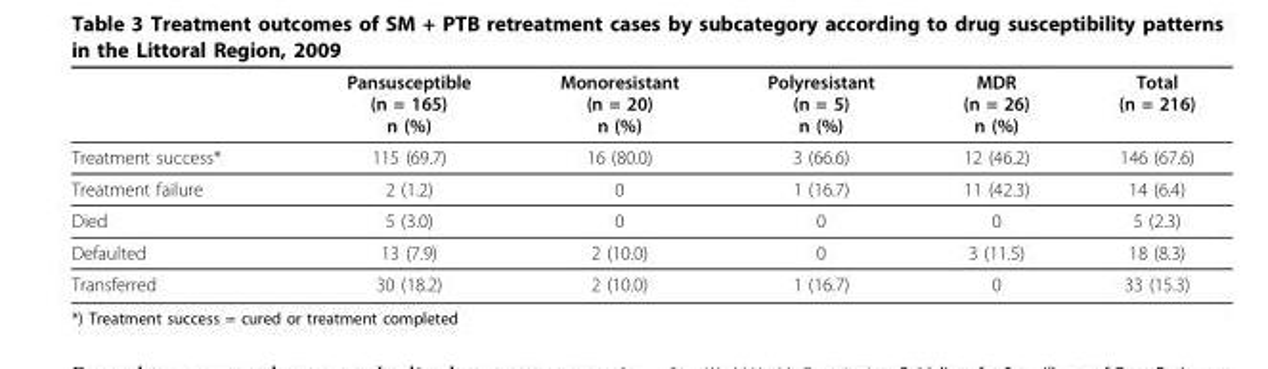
<table><thead><tr><td></td><td>Pansusceptible (n = 165) n (%)</td><td>Monoresistant (n = 20) n (%)</td><td>Polyresistant (n = 5) n (%)</td><td>MDR (n = 26) n (%)</td><td>Total (n = 216)</td></tr></thead><tbody><tr><td>Treatment success*</td><td>115 (69.7)</td><td>16 (80.0)</td><td>3 (66.6)</td><td>12 (46.2)</td><td>146 (67.6)</td></tr><tr><td>Treatment failure</td><td>2 (1.2)</td><td>0</td><td>1 (16.7)</td><td>11 (42.3)</td><td>14 (6.4)</td></tr><tr><td>Died</td><td>5 (3.0)</td><td>0</td><td>0</td><td>0</td><td>5 (2.3)</td></tr><tr><td>Defaulted</td><td>13 (7.9)</td><td>2 (10.0)</td><td>0</td><td>3 (11.5)</td><td>18 (8.3)</td></tr><tr><td>Transferred</td><td>30 (18.2)</td><td>2 (10.0)</td><td>1 (16.7)</td><td>0</td><td>33 (15.3)</td></tr></tbody></table>